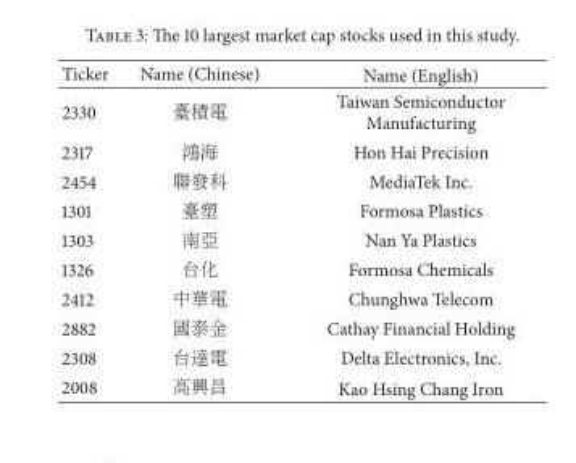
<table><thead><tr><td>Ticker</td><td>Name (Chinese)</td><td>Name (English)</td></tr></thead><tbody><tr><td>2330</td><td>臺積電</td><td>Taiwan Semiconductor Manufacturing</td></tr><tr><td>2317</td><td>鴻海</td><td>Hon Hai Precision</td></tr><tr><td>2454</td><td>聯發科</td><td>MediaTek Inc.</td></tr><tr><td>1301</td><td>臺塑</td><td>Formosa Plastics</td></tr><tr><td>1303</td><td>南亞</td><td>Nan Ya Plastics</td></tr><tr><td>1326</td><td>台化</td><td>Formosa Chemicals</td></tr><tr><td>2412</td><td>中華電</td><td>Chunghwa Telecom</td></tr><tr><td>2882</td><td>國泰金</td><td>Cathay Financial Holding</td></tr><tr><td>2308</td><td>台達電</td><td>Delta Electronics, Inc.</td></tr><tr><td>2008</td><td>高興昌</td><td>Kao Hsing Chang Iron</td></tr></tbody></table>